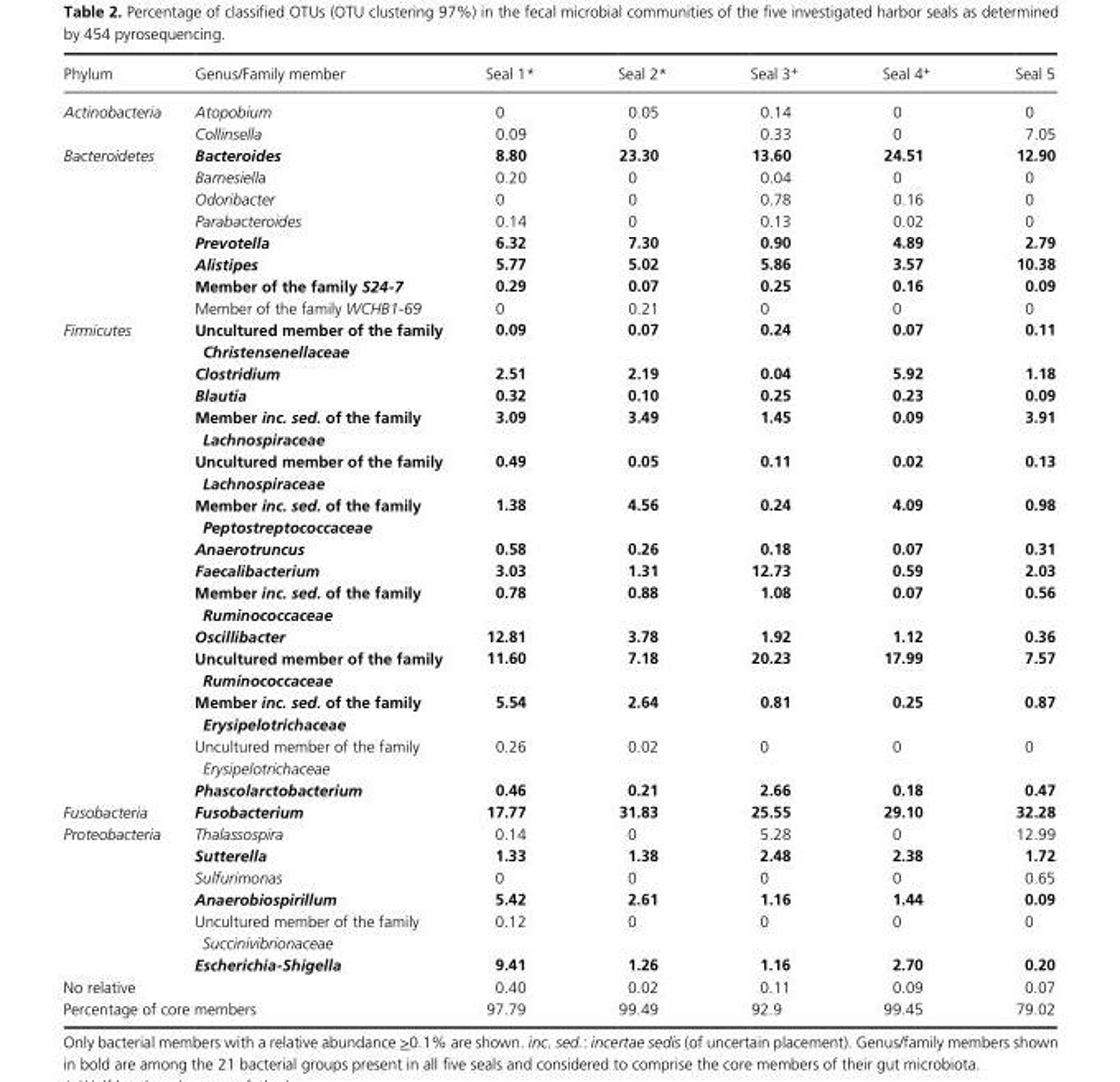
<table><thead><tr><td>Phylum</td><td>Genus/Family member</td><td>Seal 1*</td><td>Seal 2*</td><td>Seal 3<sup>+</sup></td><td>Seal 4<sup>+</sup></td><td>Seal 5</td></tr></thead><tbody><tr><td rowspan="2">Actinobacteria</td><td>Atopobium</td><td>0</td><td>0.05</td><td>0.14</td><td>0</td><td>0</td></tr><tr><td>Collinsella</td><td>0.09</td><td>0</td><td>0.33</td><td>0</td><td>7.05</td></tr><tr><td rowspan="8">Bacteroidetes</td><td>Bacteroides</td><td>8.80</td><td>23.30</td><td>13.60</td><td>24.51</td><td>12.90</td></tr><tr><td>Barnesiella</td><td>0.20</td><td>0</td><td>0.04</td><td>0</td><td>0</td></tr><tr><td>Odoribacter</td><td>0</td><td>0</td><td>0.78</td><td>0.16</td><td>0</td></tr><tr><td>Parabacteroides</td><td>0.14</td><td>0</td><td>0.13</td><td>0.02</td><td>0</td></tr><tr><td>Prevotella</td><td>6.32</td><td>7.30</td><td>0.90</td><td>4.89</td><td>2.79</td></tr><tr><td>Alistipes</td><td>5.77</td><td>5.02</td><td>5.86</td><td>3.57</td><td>10.38</td></tr><tr><td>Member of the family S24-7</td><td>0.29</td><td>0.07</td><td>0.25</td><td>0.16</td><td>0.09</td></tr><tr><td>Member of the family WCHB1-69</td><td>0</td><td>0.21</td><td>0</td><td>0</td><td>0</td></tr><tr><td rowspan="14">Firmicutes</td><td>Uncultured member of the family Christensenellaceae</td><td>0.09</td><td>0.07</td><td>0.24</td><td>0.07</td><td>0.11</td></tr><tr><td>Clostridium</td><td>2.51</td><td>2.19</td><td>0.04</td><td>5.92</td><td>1.18</td></tr><tr><td>Blautia</td><td>0.32</td><td>0.10</td><td>0.25</td><td>0.23</td><td>0.09</td></tr><tr><td>Member inc. sed. of the family Lachnospiraceae</td><td>3.09</td><td>3.49</td><td>1.45</td><td>0.09</td><td>3.91</td></tr><tr><td>Uncultured member of the family Lachnospiraceae</td><td>0.49</td><td>0.05</td><td>0.11</td><td>0.02</td><td>0.13</td></tr><tr><td>Member inc. sed. of the family Peptostreptococcaceae</td><td>1.38</td><td>4.56</td><td>0.24</td><td>4.09</td><td>0.98</td></tr><tr><td>Anaerotruncus</td><td>0.58</td><td>0.26</td><td>0.18</td><td>0.07</td><td>0.31</td></tr><tr><td>Faecalibacterium</td><td>3.03</td><td>1.31</td><td>12.73</td><td>0.59</td><td>2.03</td></tr><tr><td>Member inc. sed. of the family Ruminococcaceae</td><td>0.78</td><td>0.88</td><td>1.08</td><td>0.07</td><td>0.56</td></tr><tr><td>Oscillibacter</td><td>12.81</td><td>3.78</td><td>1.92</td><td>1.12</td><td>0.36</td></tr><tr><td>Uncultured member of the family Ruminococcaceae</td><td>11.60</td><td>7.18</td><td>20.23</td><td>17.99</td><td>7.57</td></tr><tr><td>Member inc. sed. of the family Erysipelotrichaceae</td><td>5.54</td><td>2.64</td><td>0.81</td><td>0.25</td><td>0.87</td></tr><tr><td>Uncultured member of the family Erysipelotrichaceae</td><td>0.26</td><td>0.02</td><td>0</td><td>0</td><td>0</td></tr><tr><td>Phascolarctobacterium</td><td>0.46</td><td>0.21</td><td>2.66</td><td>0.18</td><td>0.47</td></tr><tr><td>Fusobacteria</td><td>Fusobacterium</td><td>17.77</td><td>31.83</td><td>25.55</td><td>29.10</td><td>32.28</td></tr><tr><td rowspan="6">Proteobacteria</td><td>Thalassospira</td><td>0.14</td><td>0</td><td>5.28</td><td>0</td><td>12.99</td></tr><tr><td>Sutterella</td><td>1.33</td><td>1.38</td><td>2.48</td><td>2.38</td><td>1.72</td></tr><tr><td>Sulfurimonas</td><td>0</td><td>0</td><td>0</td><td>0</td><td>0.65</td></tr><tr><td>Anaerobiospirillum</td><td>5.42</td><td>2.61</td><td>1.16</td><td>1.44</td><td>0.09</td></tr><tr><td>Uncultured member of the family Succinivibrionaceae</td><td>0.12</td><td>0</td><td>0</td><td>0</td><td>0</td></tr><tr><td>Escherichia-Shigella</td><td>9.41</td><td>1.26</td><td>1.16</td><td>2.70</td><td>0.20</td></tr><tr><td colspan="2">No relative</td><td>0.40</td><td>0.02</td><td>0.11</td><td>0.09</td><td>0.07</td></tr><tr><td colspan="2">Percentage of core members</td><td>97.79</td><td>99.49</td><td>92.9</td><td>99.45</td><td>79.02</td></tr></tbody></table>